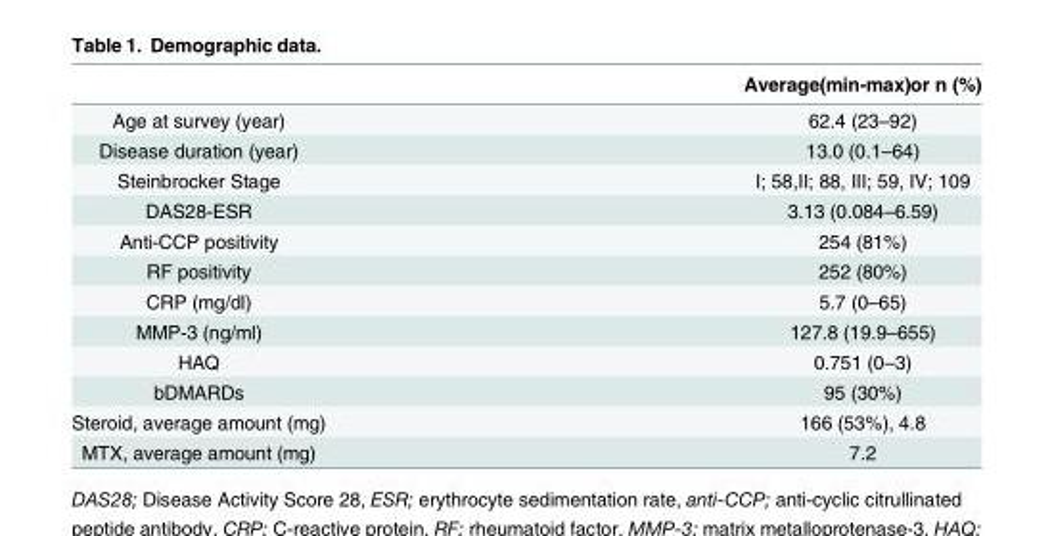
<table><thead><tr><td></td><td>Average(min-max)or n (%)</td></tr></thead><tbody><tr><td>Age at survey (year)</td><td>62.4 (23–92)</td></tr><tr><td>Disease duration (year)</td><td>13.0 (0.1–64)</td></tr><tr><td>Steinbrocker Stage</td><td>I; 58,II; 88, III; 59, IV; 109</td></tr><tr><td>DAS28-ESR</td><td>3.13 (0.084–6.59)</td></tr><tr><td>Anti-CCP positivity</td><td>254 (81%)</td></tr><tr><td>RF positivity</td><td>252 (80%)</td></tr><tr><td>CRP (mg/dl)</td><td>5.7 (0–65)</td></tr><tr><td>MMP-3 (ng/ml)</td><td>127.8 (19.9–655)</td></tr><tr><td>HAQ</td><td>0.751 (0–3)</td></tr><tr><td>bDMARDs</td><td>95 (30%)</td></tr><tr><td>Steroid, average amount (mg)</td><td>166 (53%), 4.8</td></tr><tr><td>MTX, average amount (mg)</td><td>7.2</td></tr></tbody></table>